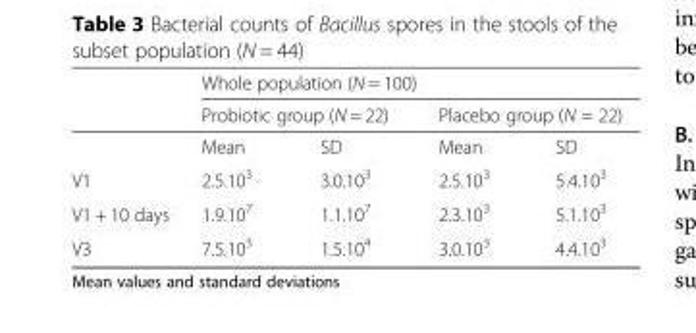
<table><thead><tr><td rowspan="3"></td><td colspan="4">Whole population (N = 100)</td></tr><tr><td colspan="2">Probiotic group (N = 22)</td><td colspan="2">Placebo group (N = 22)</td></tr><tr><td>Mean</td><td>SD</td><td>Mean</td><td>SD</td></tr></thead><tbody><tr><td>V1</td><td>2.5.10<sup>3</sup></td><td>3.0.10<sup>3</sup></td><td>2.5.10<sup>3</sup></td><td>5.4.10<sup>3</sup></td></tr><tr><td>V1 + 10 days</td><td>1.9.10<sup>7</sup></td><td>1.1.10<sup>7</sup></td><td>2.3.10<sup>3</sup></td><td>5.1.10<sup>3</sup></td></tr><tr><td>V3</td><td>7.5.10<sup>3</sup></td><td>1.5.10<sup>4</sup></td><td>3.0.10<sup>3</sup></td><td>4.4.10<sup>3</sup></td></tr></tbody></table>